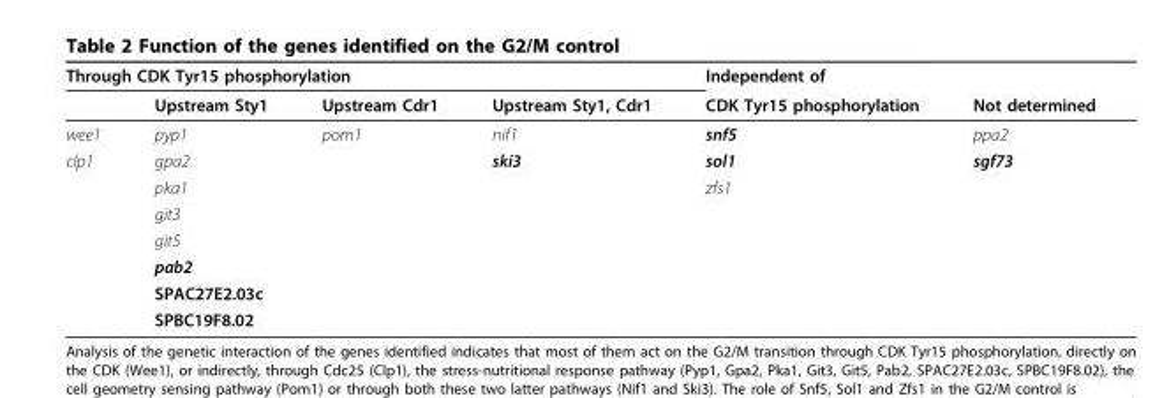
<table><thead><tr><td colspan="4">Through CDK Tyr15 phosphorylation</td><td rowspan="2">Independent of CDK Tyr15 phosphorylation</td><td rowspan="2">Not determined</td></tr><tr><td></td><td>Upstream Sty1</td><td>Upstream Cdr1</td><td>Upstream Sty1, Cdr1</td></tr></thead><tbody><tr><td>wee1</td><td>pyp1</td><td>pom1</td><td>nif1</td><td>snf5</td><td>ppa2</td></tr><tr><td rowspan="7">clp1</td><td>gpa2</td><td></td><td>ski3</td><td>sol1</td><td>sgf73</td></tr><tr><td>pka1</td><td></td><td></td><td>zfs1</td><td></td></tr><tr><td>git3</td><td></td><td></td><td></td><td></td></tr><tr><td>git5</td><td></td><td></td><td></td><td></td></tr><tr><td>pab2</td><td></td><td></td><td></td><td></td></tr><tr><td>SPAC27E2.03c</td><td></td><td></td><td></td><td></td></tr><tr><td>SPBC19F8.02</td><td></td><td></td><td></td><td></td></tr></tbody></table>